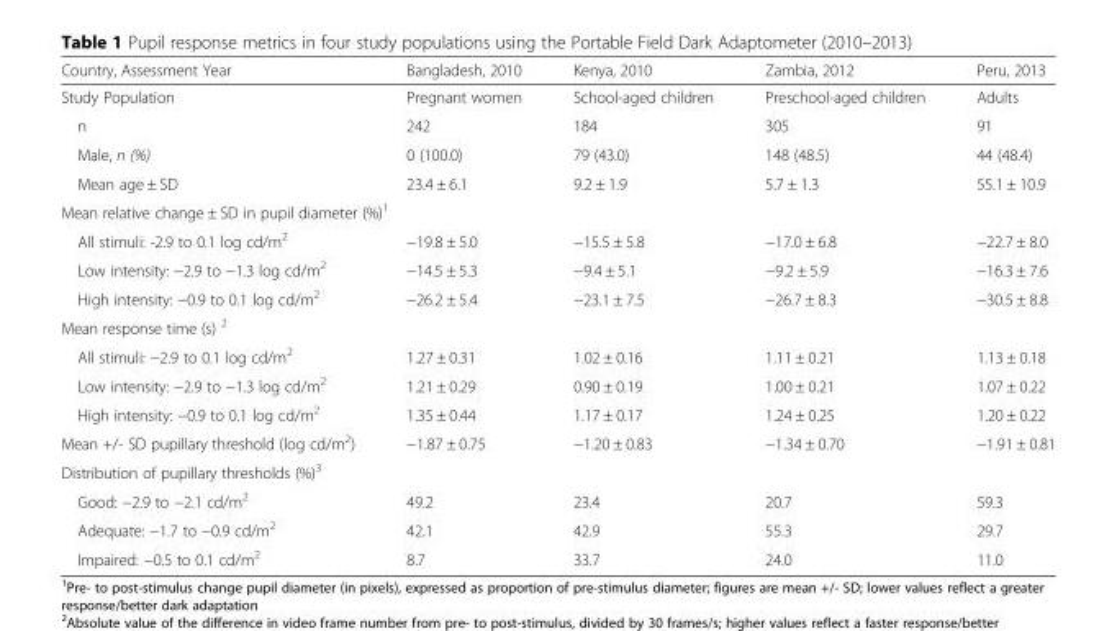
<table><thead><tr><td>Country, Assessment Year</td><td>Bangladesh, 2010</td><td>Kenya, 2010</td><td>Zambia, 2012</td><td>Peru, 2013</td></tr></thead><tbody><tr><td>Study Population</td><td>Pregnant women</td><td>School-aged children</td><td>Preschool-aged children</td><td>Adults</td></tr><tr><td>n</td><td>242</td><td>184</td><td>305</td><td>91</td></tr><tr><td>Male, n (%)</td><td>0 (100.0)</td><td>79 (43.0)</td><td>148 (48.5)</td><td>44 (48.4)</td></tr><tr><td>Mean age ± SD</td><td>23.4 ± 6.1</td><td>9.2 ± 1.9</td><td>5.7 ± 1.3</td><td>55.1 ± 10.9</td></tr><tr><td colspan="5">Mean relative change ± SD in pupil diameter (%)<sup>1</sup></td></tr><tr><td>All stimuli: -2.9 to 0.1 log cd/m<sup>2</sup></td><td>−19.8 ± 5.0</td><td>−15.5 ± 5.8</td><td>−17.0 ± 6.8</td><td>−22.7 ± 8.0</td></tr><tr><td>Low intensity: −2.9 to −1.3 log cd/m<sup>2</sup></td><td>−14.5 ± 5.3</td><td>−9.4 ± 5.1</td><td>−9.2 ± 5.9</td><td>−16.3 ± 7.6</td></tr><tr><td>High intensity: −0.9 to 0.1 log cd/m<sup>2</sup></td><td>−26.2 ± 5.4</td><td>−23.1 ± 7.5</td><td>−26.7 ± 8.3</td><td>−30.5 ± 8.8</td></tr><tr><td colspan="5">Mean response time (s) <sup>2</sup></td></tr><tr><td>All stimuli: −2.9 to 0.1 log cd/m<sup>2</sup></td><td>1.27 ± 0.31</td><td>1.02 ± 0.16</td><td>1.11 ± 0.21</td><td>1.13 ± 0.18</td></tr><tr><td>Low intensity: −2.9 to −1.3 log cd/m<sup>2</sup></td><td>1.21 ± 0.29</td><td>0.90 ± 0.19</td><td>1.00 ± 0.21</td><td>1.07 ± 0.22</td></tr><tr><td>High intensity: −0.9 to 0.1 log cd/m<sup>2</sup></td><td>1.35 ± 0.44</td><td>1.17 ± 0.17</td><td>1.24 ± 0.25</td><td>1.20 ± 0.22</td></tr><tr><td>Mean +/- SD pupillary threshold (log cd/m<sup>2</sup>)</td><td>−1.87 ± 0.75</td><td>−1.20 ± 0.83</td><td>−1.34 ± 0.70</td><td>−1.91 ± 0.81</td></tr><tr><td colspan="5">Distribution of pupillary thresholds (%)<sup>3</sup></td></tr><tr><td>Good: −2.9 to −2.1 cd/m<sup>2</sup></td><td>49.2</td><td>23.4</td><td>20.7</td><td>59.3</td></tr><tr><td>Adequate: −1.7 to −0.9 cd/m<sup>2</sup></td><td>42.1</td><td>42.9</td><td>55.3</td><td>29.7</td></tr><tr><td>Impaired: −0.5 to 0.1 cd/m<sup>2</sup></td><td>8.7</td><td>33.7</td><td>24.0</td><td>11.0</td></tr></tbody></table>